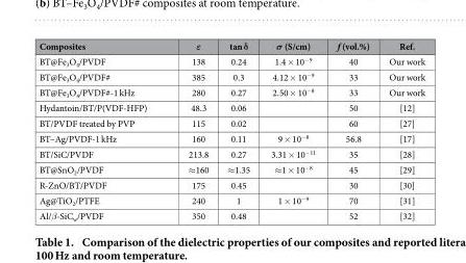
<table><thead><tr><td>Composites</td><td>ε</td><td>tan δ</td><td>σ (S/cm)</td><td>f (vol.%)</td><td>Ref.</td></tr></thead><tbody><tr><td>BT@Fe<sub>3</sub>O<sub>4</sub>/PVDF</td><td>138</td><td>0.24</td><td>1.4 × 10<sup>−9</sup></td><td>40</td><td>Our work</td></tr><tr><td>BT@Fe<sub>3</sub>O<sub>4</sub>/PVDF#</td><td>385</td><td>0.3</td><td>4.12 × 10<sup>−9</sup></td><td>33</td><td>Our work</td></tr><tr><td>BT@Fe<sub>3</sub>O<sub>4</sub>/PVDF#-1 kHz</td><td>280</td><td>0.27</td><td>2.50 × 10<sup>−8</sup></td><td>33</td><td>Our work</td></tr><tr><td>Hydantoin/BT/P(VDF-HFP)</td><td>48.3</td><td>0.06</td><td></td><td>50</td><td>[12]</td></tr><tr><td>BT/PVDF treated by PVP</td><td>115</td><td>0.02</td><td></td><td>60</td><td>[27]</td></tr><tr><td>BT–Ag/PVDF-1 kHz</td><td>160</td><td>0.11</td><td>9 × 10<sup>−8</sup></td><td>56.8</td><td>[17]</td></tr><tr><td>BT/SiC/PVDF</td><td>213.8</td><td>0.27</td><td>3.31 × 10<sup>−11</sup></td><td>35</td><td>[28]</td></tr><tr><td>BT@SnO<sub>2</sub>/PVDF</td><td>≈ 160</td><td>≈ 1.35</td><td>≈ 1 × 10<sup>−8</sup></td><td>45</td><td>[29]</td></tr><tr><td>R-ZnO/BT/PVDF</td><td>175</td><td>0.45</td><td></td><td>30</td><td>[30]</td></tr><tr><td>Ag@TiO<sub>2</sub>/PTFE</td><td>240</td><td>1</td><td>1 × 10<sup>−9</sup></td><td>70</td><td>[31]</td></tr><tr><td>Al/β-SiC<sub>w</sub>/PVDF</td><td>350</td><td>0.48</td><td></td><td>52</td><td>[32]</td></tr></tbody></table>